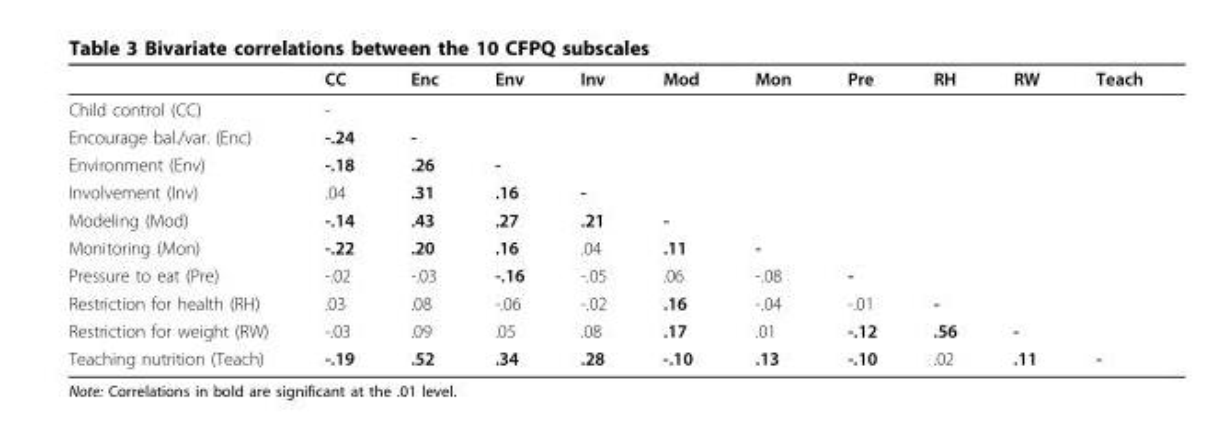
<table><thead><tr><td></td><td>CC</td><td>Enc</td><td>Env</td><td>Inv</td><td>Mod</td><td>Mon</td><td>Pre</td><td>RH</td><td>RW</td><td>Teach</td></tr></thead><tbody><tr><td>Child control (CC)</td><td>-</td><td></td><td></td><td></td><td></td><td></td><td></td><td></td><td></td><td></td></tr><tr><td>Encourage bal./var. (Enc)</td><td>-.24</td><td>-</td><td></td><td></td><td></td><td></td><td></td><td></td><td></td><td></td></tr><tr><td>Environment (Env)</td><td>-.18</td><td>.26</td><td>-</td><td></td><td></td><td></td><td></td><td></td><td></td><td></td></tr><tr><td>Involvement (Inv)</td><td>.04</td><td>.31</td><td>.16</td><td>-</td><td></td><td></td><td></td><td></td><td></td><td></td></tr><tr><td>Modeling (Mod)</td><td>-.14</td><td>.43</td><td>.27</td><td>.21</td><td>-</td><td></td><td></td><td></td><td></td><td></td></tr><tr><td>Monitoring (Mon)</td><td>-.22</td><td>.20</td><td>.16</td><td>.04</td><td>.11</td><td>-</td><td></td><td></td><td></td><td></td></tr><tr><td>Pressure to eat (Pre)</td><td>-.02</td><td>-.03</td><td>-.16</td><td>-.05</td><td>.06</td><td>-.08</td><td>-</td><td></td><td></td><td></td></tr><tr><td>Restriction for health (RH)</td><td>.03</td><td>.08</td><td>-.06</td><td>-.02</td><td>.16</td><td>-.04</td><td>-.01</td><td>-</td><td></td><td></td></tr><tr><td>Restriction for weight (RW)</td><td>-.03</td><td>.09</td><td>.05</td><td>.08</td><td>.17</td><td>.01</td><td>-.12</td><td>.56</td><td>-</td><td></td></tr><tr><td>Teaching nutrition (Teach)</td><td>-.19</td><td>.52</td><td>.34</td><td>.28</td><td>-.10</td><td>.13</td><td>-.10</td><td>.02</td><td>.11</td><td>-</td></tr></tbody></table>